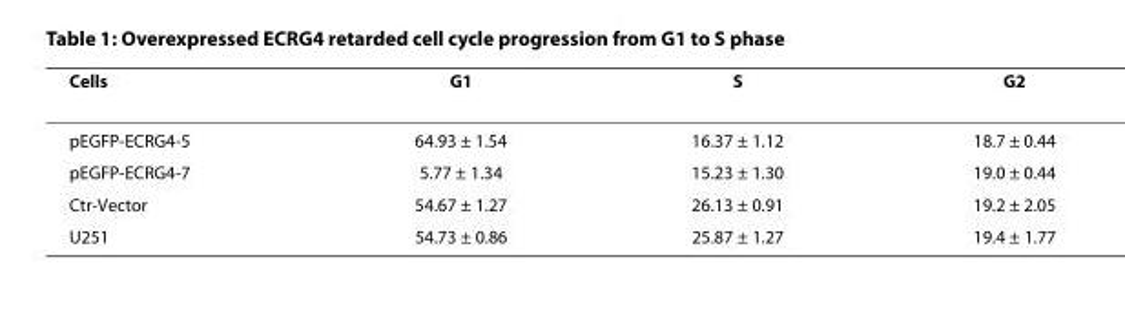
<table><thead><tr><td>Cells</td><td>G1</td><td>S</td><td>G2</td></tr></thead><tbody><tr><td>pEGFP-ECRG4-5</td><td>64.93 ± 1.54</td><td>16.37 ± 1.12</td><td>18.7 ± 0.44</td></tr><tr><td>pEGFP-ECRG4-7</td><td>5.77 ± 1.34</td><td>15.23 ± 1.30</td><td>19.0 ± 0.44</td></tr><tr><td>Ctr-Vector</td><td>54.67 ± 1.27</td><td>26.13 ± 0.91</td><td>19.2 ± 2.05</td></tr><tr><td>U251</td><td>54.73 ± 0.86</td><td>25.87 ± 1.27</td><td>19.4 ± 1.77</td></tr></tbody></table>